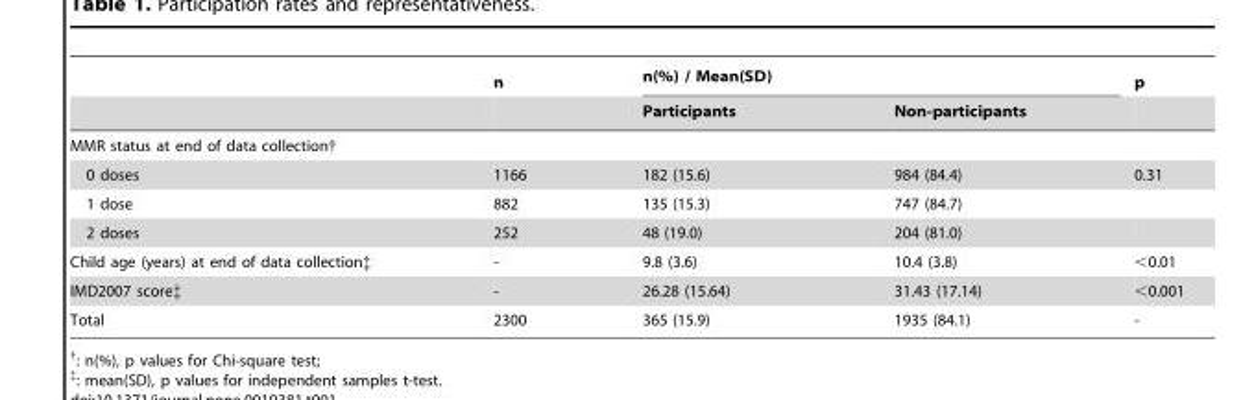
<table><thead><tr><td rowspan="2"></td><td rowspan="2">n</td><td colspan="2">n(%) / Mean(SD)</td><td rowspan="2">p</td></tr><tr><td>Participants</td><td>Non-participants</td></tr></thead><tbody><tr><td colspan="5">MMR status at end of data collection†</td></tr><tr><td>0 doses</td><td>1166</td><td>182 (15.6)</td><td>984 (84.4)</td><td>0.31</td></tr><tr><td>1 dose</td><td>882</td><td>135 (15.3)</td><td>747 (84.7)</td><td></td></tr><tr><td>2 doses</td><td>252</td><td>48 (19.0)</td><td>204 (81.0)</td><td></td></tr><tr><td>Child age (years) at end of data collection‡</td><td>-</td><td>9.8 (3.6)</td><td>10.4 (3.8)</td><td>&lt;0.01</td></tr><tr><td>IMD2007 score‡</td><td>-</td><td>26.28 (15.64)</td><td>31.43 (17.14)</td><td>&lt;0.001</td></tr><tr><td>Total</td><td>2300</td><td>365 (15.9)</td><td>1935 (84.1)</td><td>-</td></tr></tbody></table>